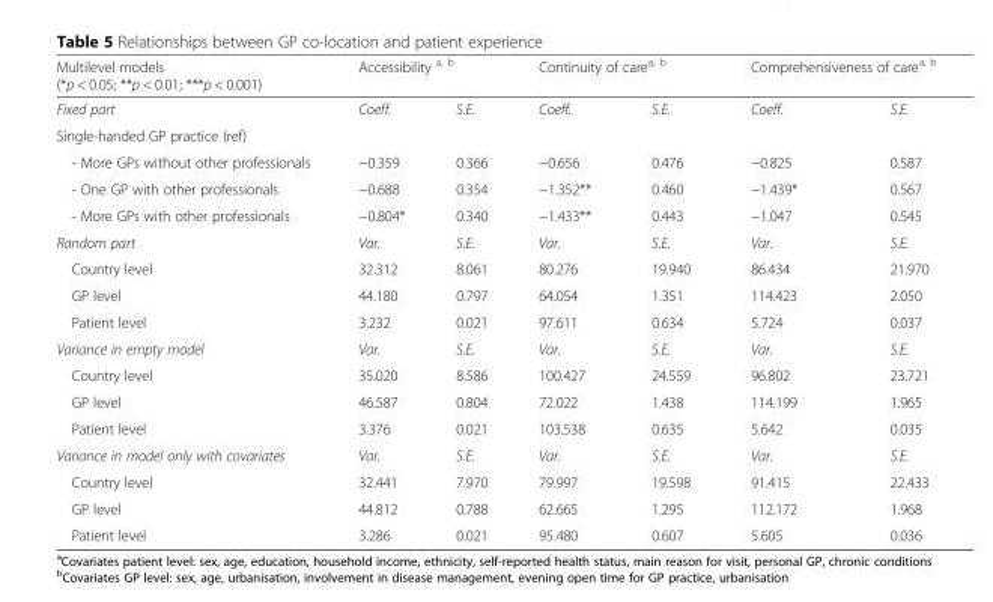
<table><thead><tr><td rowspan="2">Multilevel models (*p &lt; 0.05; **p &lt; 0.01; ***p &lt; 0.001) Fixed part</td><td colspan="2">Accessibility <sup>a, b</sup></td><td colspan="2">Continuity of care<sup>a, b</sup></td><td colspan="2">Comprehensiveness of care<sup>a, b</sup></td></tr><tr><td>Coeff.</td><td>S.E.</td><td>Coeff.</td><td>S.E.</td><td>Coeff.</td><td>S.E.</td></tr></thead><tbody><tr><td colspan="7">Single-handed GP practice (ref)</td></tr><tr><td>- More GPs without other professionals</td><td>−0.359</td><td>0.366</td><td>−0.656</td><td>0.476</td><td>−0.825</td><td>0.587</td></tr><tr><td>- One GP with other professionals</td><td>−0.688</td><td>0.354</td><td>−1.352**</td><td>0.460</td><td>−1.439*</td><td>0.567</td></tr><tr><td>- More GPs with other professionals</td><td>−0.804*</td><td>0.340</td><td>−1.433**</td><td>0.443</td><td>−1.047</td><td>0.545</td></tr><tr><td>Random part</td><td>Var.</td><td>S.E.</td><td>Var.</td><td>S.E.</td><td>Var.</td><td>S.E.</td></tr><tr><td>Country level</td><td>32.312</td><td>8.061</td><td>80.276</td><td>19.940</td><td>86.434</td><td>21.970</td></tr><tr><td>GP level</td><td>44.180</td><td>0.797</td><td>64.054</td><td>1.351</td><td>114.423</td><td>2.050</td></tr><tr><td>Patient level</td><td>3.232</td><td>0.021</td><td>97.611</td><td>0.634</td><td>5.724</td><td>0.037</td></tr><tr><td>Variance in empty model</td><td>Var.</td><td>S.E.</td><td>Var.</td><td>S.E.</td><td>Var.</td><td>S.E.</td></tr><tr><td>Country level</td><td>35.020</td><td>8.586</td><td>100.427</td><td>24.559</td><td>96.802</td><td>23.721</td></tr><tr><td>GP level</td><td>46.587</td><td>0.804</td><td>72.022</td><td>1.438</td><td>114.199</td><td>1.965</td></tr><tr><td>Patient level</td><td>3.376</td><td>0.021</td><td>103.538</td><td>0.635</td><td>5.642</td><td>0.035</td></tr><tr><td>Variance in model only with covariates</td><td>Var.</td><td>S.E.</td><td>Var.</td><td>S.E.</td><td>Var.</td><td>S.E.</td></tr><tr><td>Country level</td><td>32.441</td><td>7.970</td><td>79.997</td><td>19.598</td><td>91.415</td><td>22.433</td></tr><tr><td>GP level</td><td>44.812</td><td>0.788</td><td>62.665</td><td>1.295</td><td>112.172</td><td>1.968</td></tr><tr><td>Patient level</td><td>3.286</td><td>0.021</td><td>95.480</td><td>0.607</td><td>5.605</td><td>0.036</td></tr></tbody></table>